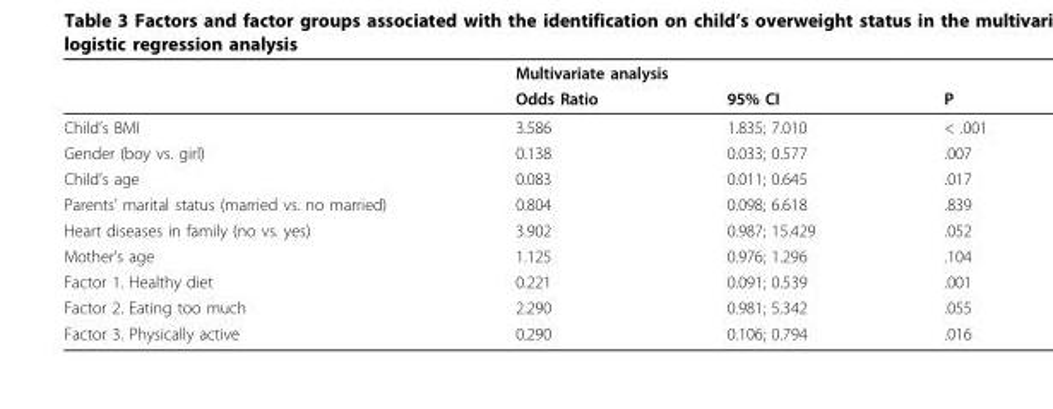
<table><thead><tr><td rowspan="2"></td><td colspan="3">Multivariate analysis</td></tr><tr><td>Odds Ratio</td><td>95% CI</td><td>P</td></tr></thead><tbody><tr><td>Child’s BMI</td><td>3.586</td><td>1.835; 7.010</td><td>&lt; .001</td></tr><tr><td>Gender (boy vs. girl)</td><td>0.138</td><td>0.033; 0.577</td><td>.007</td></tr><tr><td>Child’s age</td><td>0.083</td><td>0.011; 0.645</td><td>.017</td></tr><tr><td>Parents’ marital status (married vs. no married)</td><td>0.804</td><td>0.098; 6.618</td><td>.839</td></tr><tr><td>Heart diseases in family (no vs. yes)</td><td>3.902</td><td>0.987; 15.429</td><td>.052</td></tr><tr><td>Mother’s age</td><td>1.125</td><td>0.976; 1.296</td><td>.104</td></tr><tr><td>Factor 1. Healthy diet</td><td>0.221</td><td>0.091; 0.539</td><td>.001</td></tr><tr><td>Factor 2. Eating too much</td><td>2.290</td><td>0.981; 5.342</td><td>.055</td></tr><tr><td>Factor 3. Physically active</td><td>0.290</td><td>0.106; 0.794</td><td>.016</td></tr></tbody></table>